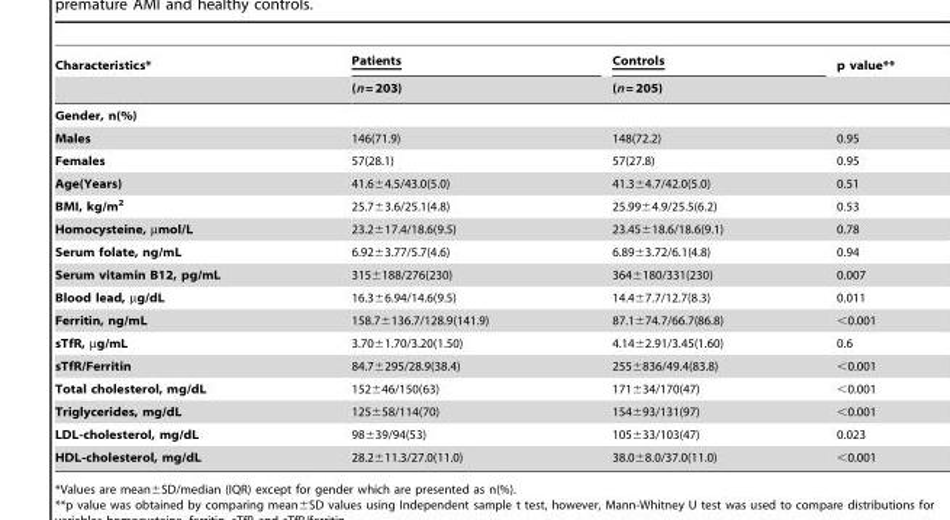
<table><thead><tr><td rowspan="2">Characteristics*</td><td rowspan="2">Patients (n = 203)</td><td rowspan="2">Controls (n = 205)</td><td rowspan="2">p value**</td></tr><tr></tr></thead><tbody><tr><td colspan="4">Gender, n(%)</td></tr><tr><td>Males</td><td>146(71.9)</td><td>148(72.2)</td><td>0.95</td></tr><tr><td>Females</td><td>57(28.1)</td><td>57(27.8)</td><td>0.95</td></tr><tr><td>Age(Years)</td><td>41.6±4.5/43.0(5.0)</td><td>41.3±4.7/42.0(5.0)</td><td>0.51</td></tr><tr><td>BMI, kg/m<sup>2</sup></td><td>25.7±3.6/25.1(4.8)</td><td>25.99±4.9/25.5(6.2)</td><td>0.53</td></tr><tr><td>Homocysteine, µmol/L</td><td>23.2±17.4/18.6(9.5)</td><td>23.45±18.6/18.6(9.1)</td><td>0.78</td></tr><tr><td>Serum folate, ng/mL</td><td>6.92±3.77/5.7(4.6)</td><td>6.89±3.72/6.1(4.8)</td><td>0.94</td></tr><tr><td>Serum vitamin B12, pg/mL</td><td>315±188/276(230)</td><td>364±180/331(230)</td><td>0.007</td></tr><tr><td>Blood lead, µg/dL</td><td>16.3±6.94/14.6(9.5)</td><td>14.4±7.7/12.7(8.3)</td><td>0.011</td></tr><tr><td>Ferritin, ng/mL</td><td>158.7±136.7/128.9(141.9)</td><td>87.1±74.7/66.7(86.8)</td><td>&lt;0.001</td></tr><tr><td>sTfR, µg/mL</td><td>3.70±1.70/3.20(1.50)</td><td>4.14±2.91/3.45(1.60)</td><td>0.6</td></tr><tr><td>sTfR/Ferritin</td><td>84.7±295/28.9(38.4)</td><td>255±836/49.4(83.8)</td><td>&lt;0.001</td></tr><tr><td>Total cholesterol, mg/dL</td><td>152±46/150(63)</td><td>171±34/170(47)</td><td>&lt;0.001</td></tr><tr><td>Triglycerides, mg/dL</td><td>125±58/114(70)</td><td>154±93/131(97)</td><td>&lt;0.001</td></tr><tr><td>LDL-cholesterol, mg/dL</td><td>98±39/94(53)</td><td>105±33/103(47)</td><td>0.023</td></tr><tr><td>HDL-cholesterol, mg/dL</td><td>28.2±11.3/27.0(11.0)</td><td>38.0±8.0/37.0(11.0)</td><td>&lt;0.001</td></tr></tbody></table>